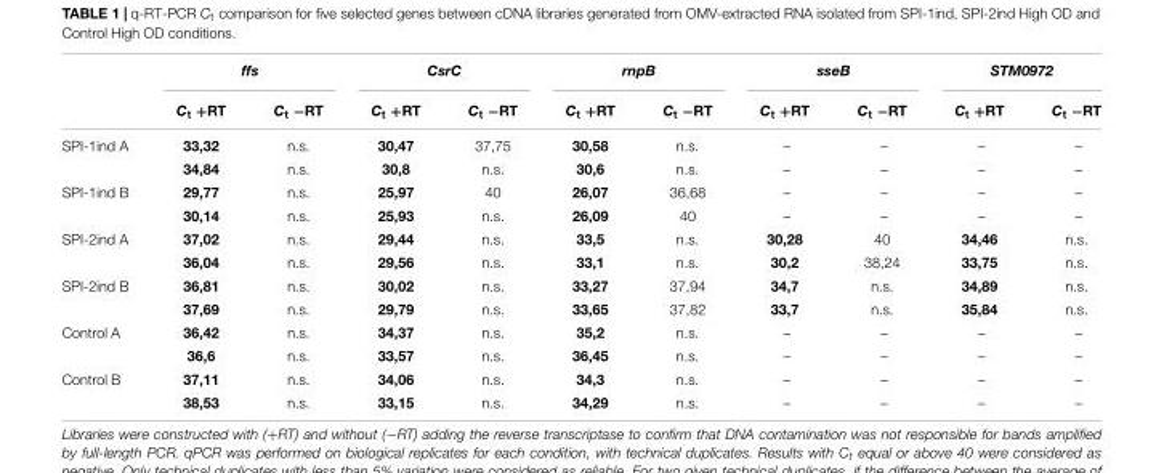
<table><thead><tr><td rowspan="2"></td><td colspan="2">ffs</td><td colspan="2">CsrC</td><td colspan="2">rnpB</td><td colspan="2">sseB</td><td colspan="2">STM0972</td></tr><tr><td>C<sub>t</sub> +RT</td><td>C<sub>t</sub> −RT</td><td>C<sub>t</sub> +RT</td><td>C<sub>t</sub> −RT</td><td>C<sub>t</sub> +RT</td><td>C<sub>t</sub> −RT</td><td>C<sub>t</sub> +RT</td><td>C<sub>t</sub> −RT</td><td>C<sub>t</sub> +RT</td><td>C<sub>t</sub> −RT</td></tr></thead><tbody><tr><td rowspan="2">SPI-1ind A</td><td>33,32</td><td>n.s.</td><td>30,47</td><td>37,75</td><td>30,58</td><td>n.s.</td><td>–</td><td>–</td><td>–</td><td>–</td></tr><tr><td>34,84</td><td>n.s.</td><td>30,8</td><td>n.s.</td><td>30,6</td><td>n.s.</td><td>–</td><td>–</td><td>–</td><td>–</td></tr><tr><td rowspan="2">SPI-1ind B</td><td>29,77</td><td>n.s.</td><td>25,97</td><td>40</td><td>26,07</td><td>36,68</td><td>–</td><td>–</td><td>–</td><td>–</td></tr><tr><td>30,14</td><td>n.s.</td><td>25,93</td><td>n.s.</td><td>26,09</td><td>40</td><td>–</td><td>–</td><td>–</td><td>–</td></tr><tr><td rowspan="2">SPI-2ind A</td><td>37,02</td><td>n.s.</td><td>29,44</td><td>n.s.</td><td>33,5</td><td>n.s.</td><td>30,28</td><td>40</td><td>34,46</td><td>n.s.</td></tr><tr><td>36,04</td><td>n.s.</td><td>29,56</td><td>n.s.</td><td>33,1</td><td>n.s.</td><td>30,2</td><td>38,24</td><td>33,75</td><td>n.s.</td></tr><tr><td rowspan="2">SPI-2ind B</td><td>36,81</td><td>n.s.</td><td>30,02</td><td>n.s.</td><td>33,27</td><td>37,94</td><td>34,7</td><td>n.s.</td><td>34,89</td><td>n.s.</td></tr><tr><td>37,69</td><td>n.s.</td><td>29,79</td><td>n.s.</td><td>33,65</td><td>37,82</td><td>33,7</td><td>n.s.</td><td>35,84</td><td>n.s.</td></tr><tr><td rowspan="2">Control A</td><td>36,42</td><td>n.s.</td><td>34,37</td><td>n.s.</td><td>35,2</td><td>n.s.</td><td>–</td><td>–</td><td>–</td><td>–</td></tr><tr><td>36,6</td><td>n.s.</td><td>33,57</td><td>n.s.</td><td>36,45</td><td>n.s.</td><td>–</td><td>–</td><td>–</td><td>–</td></tr><tr><td rowspan="2">Control B</td><td>37,11</td><td>n.s.</td><td>34,06</td><td>n.s.</td><td>34,3</td><td>n.s.</td><td>–</td><td>–</td><td>–</td><td>–</td></tr><tr><td>38,53</td><td>n.s.</td><td>33,15</td><td>n.s.</td><td>34,29</td><td>n.s.</td><td>–</td><td>–</td><td>–</td><td>–</td></tr></tbody></table>